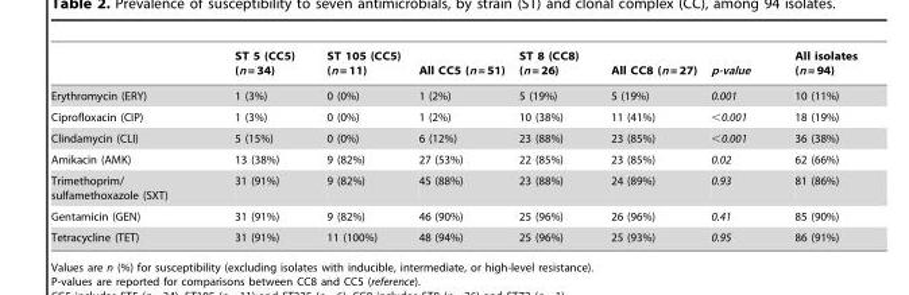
<table><thead><tr><td></td><td>ST 5 (CC5) (n = 34)</td><td>ST 105 (CC5) (n = 11)</td><td>All CC5 (n = 51)</td><td>ST 8 (CC8) (n = 26)</td><td>All CC8 (n = 27)</td><td>p-value</td><td>All isolates (n = 94)</td></tr></thead><tbody><tr><td>Erythromycin (ERY)</td><td>1 (3%)</td><td>0 (0%)</td><td>1 (2%)</td><td>5 (19%)</td><td>5 (19%)</td><td>0.001</td><td>10 (11%)</td></tr><tr><td>Ciprofloxacin (CIP)</td><td>1 (3%)</td><td>0 (0%)</td><td>1 (2%)</td><td>10 (38%)</td><td>11 (41%)</td><td>&lt;0.001</td><td>18 (19%)</td></tr><tr><td>Clindamycin (CLI)</td><td>5 (15%)</td><td>0 (0%)</td><td>6 (12%)</td><td>23 (88%)</td><td>23 (85%)</td><td>&lt;0.001</td><td>36 (38%)</td></tr><tr><td>Amikacin (AMK)</td><td>13 (38%)</td><td>9 (82%)</td><td>27 (53%)</td><td>22 (85%)</td><td>23 (85%)</td><td>0.02</td><td>62 (66%)</td></tr><tr><td>Trimethoprim/ sulfamethoxazole (SXT)</td><td>31 (91%)</td><td>9 (82%)</td><td>45 (88%)</td><td>23 (88%)</td><td>24 (89%)</td><td>0.93</td><td>81 (86%)</td></tr><tr><td>Gentamicin (GEN)</td><td>31 (91%)</td><td>9 (82%)</td><td>46 (90%)</td><td>25 (96%)</td><td>26 (96%)</td><td>0.41</td><td>85 (90%)</td></tr><tr><td>Tetracycline (TET)</td><td>31 (91%)</td><td>11 (100%)</td><td>48 (94%)</td><td>25 (96%)</td><td>25 (93%)</td><td>0.95</td><td>86 (91%)</td></tr></tbody></table>